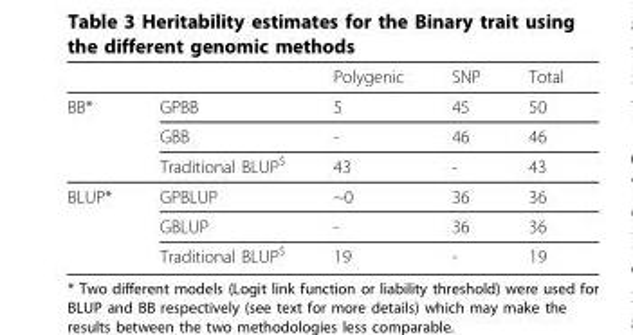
<table><thead><tr><td></td><td></td><td>Polygenic</td><td>SNP</td><td>Total</td></tr></thead><tbody><tr><td rowspan="3">BB*</td><td>GPBB</td><td>5</td><td>45</td><td>50</td></tr><tr><td>GBB</td><td>-</td><td>46</td><td>46</td></tr><tr><td>Traditional BLUP<sup>$</sup></td><td>43</td><td>-</td><td>43</td></tr><tr><td rowspan="3">BLUP*</td><td>GPBLUP</td><td>~0</td><td>36</td><td>36</td></tr><tr><td>GBLUP</td><td>-</td><td>36</td><td>36</td></tr><tr><td>Traditional BLUP<sup>$</sup></td><td>19</td><td>-</td><td>19</td></tr></tbody></table>